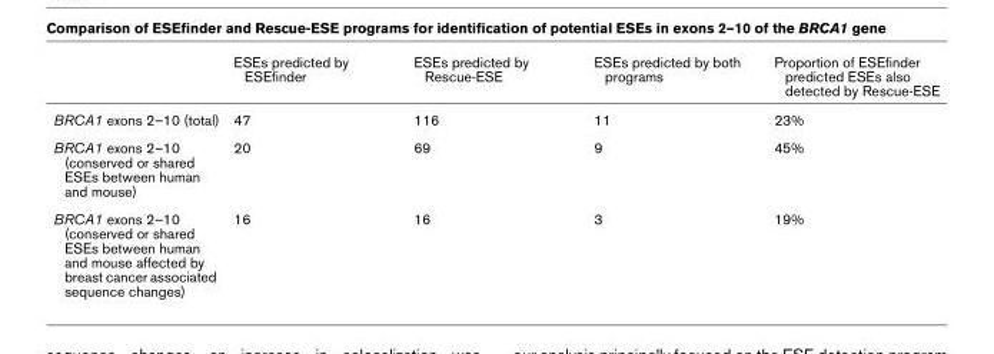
<table><thead><tr><td></td><td>ESEs predicted by ESEfinder</td><td>ESEs predicted by Rescue-ESE</td><td>ESEs predicted by both programs</td><td>Proportion of ESEfinder predicted ESEs also detected by Rescue-ESE</td></tr></thead><tbody><tr><td>BRCA1 exons 2–10 (total)</td><td>47</td><td>116</td><td>11</td><td>23%</td></tr><tr><td>BRCA1 exons 2–10 (conserved or shared ESEs between human and mouse)</td><td>20</td><td>69</td><td>9</td><td>45%</td></tr><tr><td>BRCA1 exons 2–10 (conserved or shared ESEs between human and mouse affected by breast cancer associated sequence changes)</td><td>16</td><td>16</td><td>3</td><td>19%</td></tr></tbody></table>